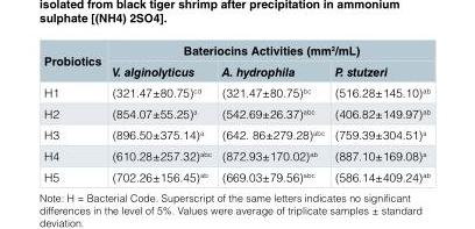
<table><thead><tr><td rowspan="2">Probiotics</td><td colspan="3">Bateriocins Activities (mm<sup>2</sup>/mL)</td></tr><tr><td>V. alginolyticus</td><td>A. hydrophila</td><td>P. stutzeri</td></tr></thead><tbody><tr><td>H1</td><td>(321.47±80.75)<sup>cd</sup></td><td>(321.47±80.75)<sup>bc</sup></td><td>(516.28±145.10)<sup>ab</sup></td></tr><tr><td>H2</td><td>(854.07±55.25)<sup>a</sup></td><td>(542.69±26.37)<sup>abc</sup></td><td>(406.82±149.97)<sup>ab</sup></td></tr><tr><td>H3</td><td>(896.50±375.14)<sup>a</sup></td><td>(642. 86±279.28)<sup>abc</sup></td><td>(759.39±304.51)<sup>a</sup></td></tr><tr><td>H4</td><td>(610.28±257.32)<sup>abc</sup></td><td>(872.93±170.02)<sup>ab</sup></td><td>(887.10±169.08)<sup>a</sup></td></tr><tr><td>H5</td><td>(702.26±156.45)<sup>ab</sup></td><td>(669.03±79.56)<sup>abc</sup></td><td>(586.14±409.24)<sup>ab</sup></td></tr></tbody></table>